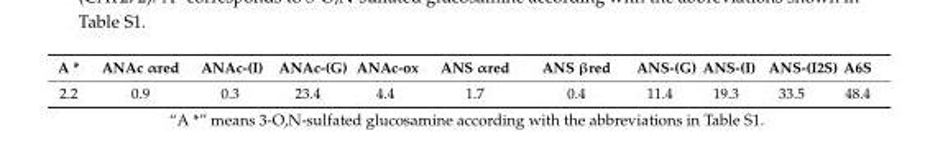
<table><thead><tr><td>A *</td><td>ANAc αred</td><td>ANAc-(I)</td><td>ANAc-(G)</td><td>ANAc-ox</td><td>ANS αred</td><td>ANS βred</td><td>ANS-(G)</td><td>ANS-(I)</td><td>ANS-(I2S)</td><td>A6S</td></tr></thead><tbody><tr><td>2.2</td><td>0.9</td><td>0.3</td><td>23.4</td><td>4.4</td><td>1.7</td><td>0.4</td><td>11.4</td><td>19.3</td><td>33.5</td><td>48.4</td></tr></tbody></table>